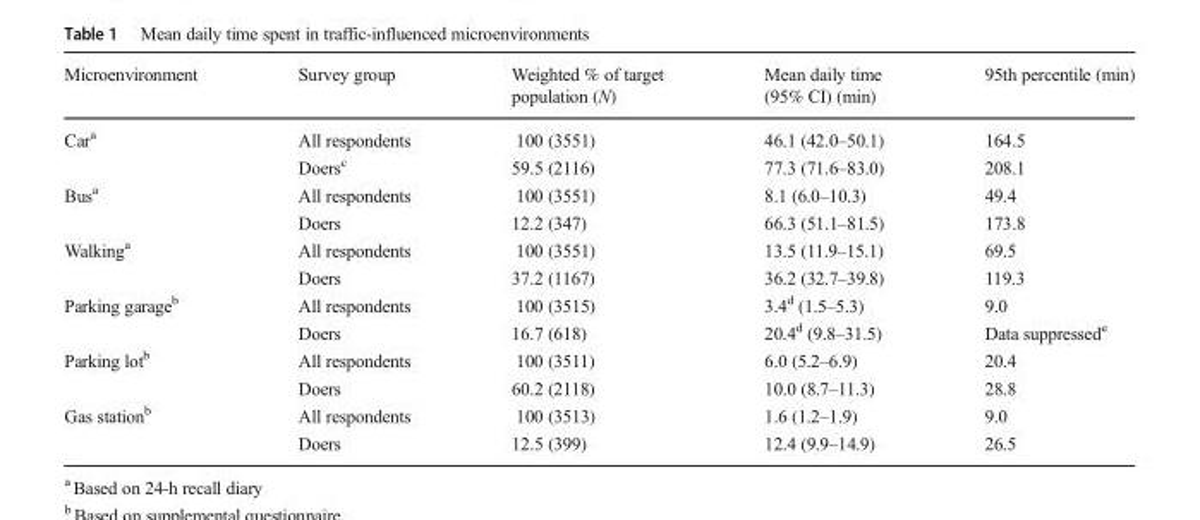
<table><thead><tr><td>Microenvironment</td><td>Survey group</td><td>Weighted % of target population (N)</td><td>Mean daily time (95% CI) (min)</td><td>95th percentile (min)</td></tr></thead><tbody><tr><td rowspan="2">Car<sup>a</sup></td><td>All respondents</td><td>100 (3551)</td><td>46.1 (42.0–50.1)</td><td>164.5</td></tr><tr><td>Doers<sup>c</sup></td><td>59.5 (2116)</td><td>77.3 (71.6–83.0)</td><td>208.1</td></tr><tr><td rowspan="2">Bus<sup>a</sup></td><td>All respondents</td><td>100 (3551)</td><td>8.1 (6.0–10.3)</td><td>49.4</td></tr><tr><td>Doers</td><td>12.2 (347)</td><td>66.3 (51.1–81.5)</td><td>173.8</td></tr><tr><td rowspan="2">Walking<sup>a</sup></td><td>All respondents</td><td>100 (3551)</td><td>13.5 (11.9–15.1)</td><td>69.5</td></tr><tr><td>Doers</td><td>37.2 (1167)</td><td>36.2 (32.7–39.8)</td><td>119.3</td></tr><tr><td rowspan="2">Parking garage<sup>b</sup></td><td>All respondents</td><td>100 (3515)</td><td>3.4<sup>d</sup> (1.5–5.3)</td><td>9.0</td></tr><tr><td>Doers</td><td>16.7 (618)</td><td>20.4<sup>d</sup> (9.8–31.5)</td><td>Data suppressed<sup>e</sup></td></tr><tr><td rowspan="2">Parking lot<sup>b</sup></td><td>All respondents</td><td>100 (3511)</td><td>6.0 (5.2–6.9)</td><td>20.4</td></tr><tr><td>Doers</td><td>60.2 (2118)</td><td>10.0 (8.7–11.3)</td><td>28.8</td></tr><tr><td rowspan="2">Gas station<sup>b</sup></td><td>All respondents</td><td>100 (3513)</td><td>1.6 (1.2–1.9)</td><td>9.0</td></tr><tr><td>Doers</td><td>12.5 (399)</td><td>12.4 (9.9–14.9)</td><td>26.5</td></tr></tbody></table>